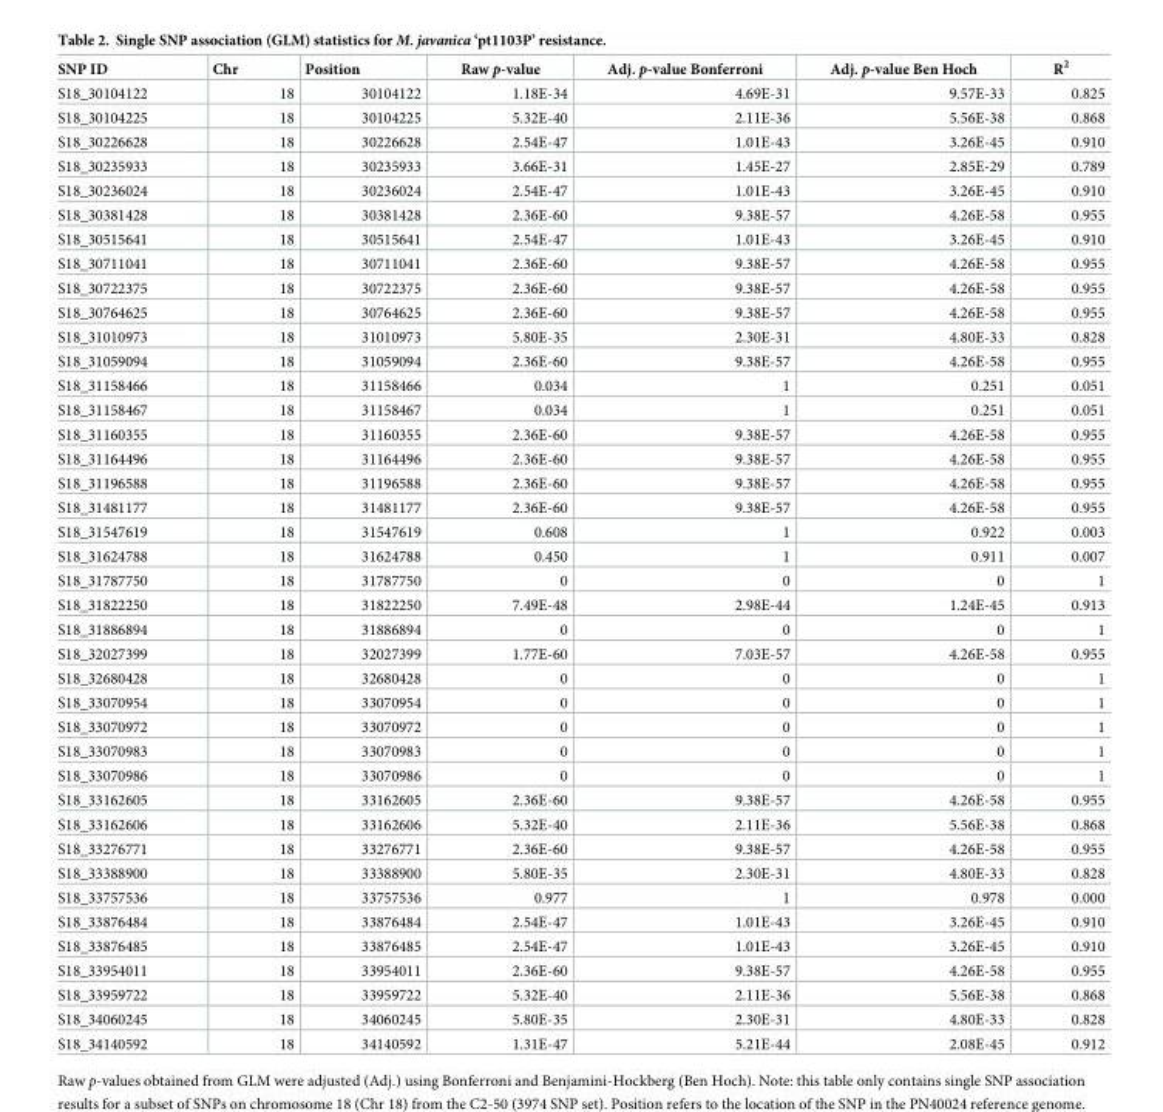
<table><thead><tr><td>SNP ID</td><td>Chr</td><td>Position</td><td>Raw p-value</td><td>Adj. p-value Bonferroni</td><td>Adj. p-value Ben Hoch</td><td>R<sup>2</sup></td></tr></thead><tbody><tr><td>S18_30104122</td><td>18</td><td>30104122</td><td>1.18E-34</td><td>4.69E-31</td><td>9.57E-33</td><td>0.825</td></tr><tr><td>S18_30104225</td><td>18</td><td>30104225</td><td>5.32E-40</td><td>2.11E-36</td><td>5.56E-38</td><td>0.868</td></tr><tr><td>S18_30226628</td><td>18</td><td>30226628</td><td>2.54E-47</td><td>1.01E-43</td><td>3.26E-45</td><td>0.910</td></tr><tr><td>S18_30235933</td><td>18</td><td>30235933</td><td>3.66E-31</td><td>1.45E-27</td><td>2.85E-29</td><td>0.789</td></tr><tr><td>S18_30236024</td><td>18</td><td>30236024</td><td>2.54E-47</td><td>1.01E-43</td><td>3.26E-45</td><td>0.910</td></tr><tr><td>S18_30381428</td><td>18</td><td>30381428</td><td>2.36E-60</td><td>9.38E-57</td><td>4.26E-58</td><td>0.955</td></tr><tr><td>S18_30515641</td><td>18</td><td>30515641</td><td>2.54E-47</td><td>1.01E-43</td><td>3.26E-45</td><td>0.910</td></tr><tr><td>S18_30711041</td><td>18</td><td>30711041</td><td>2.36E-60</td><td>9.38E-57</td><td>4.26E-58</td><td>0.955</td></tr><tr><td>S18_30722375</td><td>18</td><td>30722375</td><td>2.36E-60</td><td>9.38E-57</td><td>4.26E-58</td><td>0.955</td></tr><tr><td>S18_30764625</td><td>18</td><td>30764625</td><td>2.36E-60</td><td>9.38E-57</td><td>4.26E-58</td><td>0.955</td></tr><tr><td>S18_31010973</td><td>18</td><td>31010973</td><td>5.80E-35</td><td>2.30E-31</td><td>4.80E-33</td><td>0.828</td></tr><tr><td>S18_31059094</td><td>18</td><td>31059094</td><td>2.36E-60</td><td>9.38E-57</td><td>4.26E-58</td><td>0.955</td></tr><tr><td>S18_31158466</td><td>18</td><td>31158466</td><td>0.034</td><td>1</td><td>0.251</td><td>0.051</td></tr><tr><td>S18_31158467</td><td>18</td><td>31158467</td><td>0.034</td><td>1</td><td>0.251</td><td>0.051</td></tr><tr><td>S18_31160355</td><td>18</td><td>31160355</td><td>2.36E-60</td><td>9.38E-57</td><td>4.26E-58</td><td>0.955</td></tr><tr><td>S18_31164496</td><td>18</td><td>31164496</td><td>2.36E-60</td><td>9.38E-57</td><td>4.26E-58</td><td>0.955</td></tr><tr><td>S18_31196588</td><td>18</td><td>31196588</td><td>2.36E-60</td><td>9.38E-57</td><td>4.26E-58</td><td>0.955</td></tr><tr><td>S18_31481177</td><td>18</td><td>31481177</td><td>2.36E-60</td><td>9.38E-57</td><td>4.26E-58</td><td>0.955</td></tr><tr><td>S18_31547619</td><td>18</td><td>31547619</td><td>0.608</td><td>1</td><td>0.922</td><td>0.003</td></tr><tr><td>S18_31624788</td><td>18</td><td>31624788</td><td>0.450</td><td>1</td><td>0.911</td><td>0.007</td></tr><tr><td>S18_31787750</td><td>18</td><td>31787750</td><td>0</td><td>0</td><td>0</td><td>1</td></tr><tr><td>S18_31822250</td><td>18</td><td>31822250</td><td>7.49E-48</td><td>2.98E-44</td><td>1.24E-45</td><td>0.913</td></tr><tr><td>S18_31886894</td><td>18</td><td>31886894</td><td>0</td><td>0</td><td>0</td><td>1</td></tr><tr><td>S18_32027399</td><td>18</td><td>32027399</td><td>1.77E-60</td><td>7.03E-57</td><td>4.26E-58</td><td>0.955</td></tr><tr><td>S18_32680428</td><td>18</td><td>32680428</td><td>0</td><td>0</td><td>0</td><td>1</td></tr><tr><td>S18_33070954</td><td>18</td><td>33070954</td><td>0</td><td>0</td><td>0</td><td>1</td></tr><tr><td>S18_33070972</td><td>18</td><td>33070972</td><td>0</td><td>0</td><td>0</td><td>1</td></tr><tr><td>S18_33070983</td><td>18</td><td>33070983</td><td>0</td><td>0</td><td>0</td><td>1</td></tr><tr><td>S18_33070986</td><td>18</td><td>33070986</td><td>0</td><td>0</td><td>0</td><td>1</td></tr><tr><td>S18_33162605</td><td>18</td><td>33162605</td><td>2.36E-60</td><td>9.38E-57</td><td>4.26E-58</td><td>0.955</td></tr><tr><td>S18_33162606</td><td>18</td><td>33162606</td><td>5.32E-40</td><td>2.11E-36</td><td>5.56E-38</td><td>0.868</td></tr><tr><td>S18_33276771</td><td>18</td><td>33276771</td><td>2.36E-60</td><td>9.38E-57</td><td>4.26E-58</td><td>0.955</td></tr><tr><td>S18_33388900</td><td>18</td><td>33388900</td><td>5.80E-35</td><td>2.30E-31</td><td>4.80E-33</td><td>0.828</td></tr><tr><td>S18_33757536</td><td>18</td><td>33757536</td><td>0.977</td><td>1</td><td>0.978</td><td>0.000</td></tr><tr><td>S18_33876484</td><td>18</td><td>33876484</td><td>2.54E-47</td><td>1.01E-43</td><td>3.26E-45</td><td>0.910</td></tr><tr><td>S18_33876485</td><td>18</td><td>33876485</td><td>2.54E-47</td><td>1.01E-43</td><td>3.26E-45</td><td>0.910</td></tr><tr><td>S18_33954011</td><td>18</td><td>33954011</td><td>2.36E-60</td><td>9.38E-57</td><td>4.26E-58</td><td>0.955</td></tr><tr><td>S18_33959722</td><td>18</td><td>33959722</td><td>5.32E-40</td><td>2.11E-36</td><td>5.56E-38</td><td>0.868</td></tr><tr><td>S18_34060245</td><td>18</td><td>34060245</td><td>5.80E-35</td><td>2.30E-31</td><td>4.80E-33</td><td>0.828</td></tr><tr><td>S18_34140592</td><td>18</td><td>34140592</td><td>1.31E-47</td><td>5.21E-44</td><td>2.08E-45</td><td>0.912</td></tr></tbody></table>